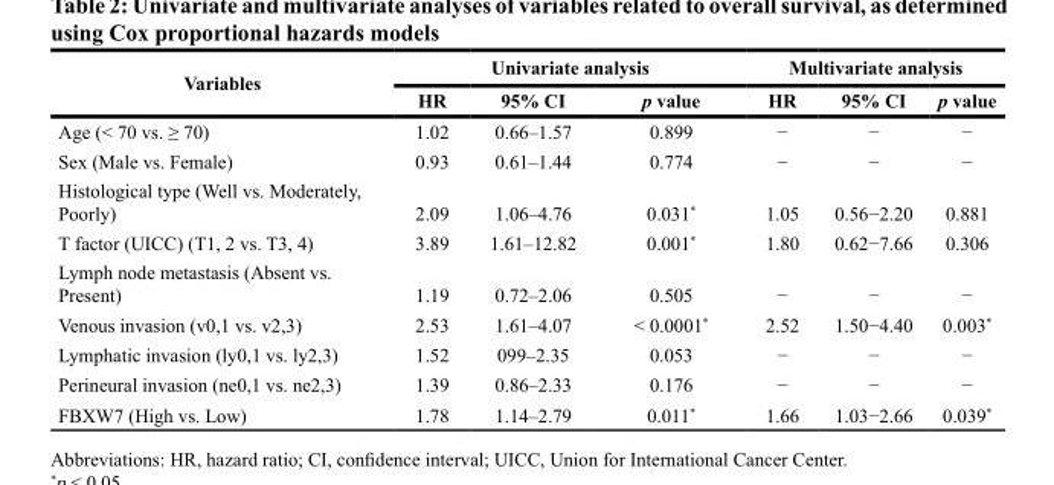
<table><thead><tr><td rowspan="2">Variables</td><td colspan="3">Univariate analysis</td><td colspan="3">Multivariate analysis</td></tr><tr><td>HR</td><td>95% CI</td><td>p value</td><td>HR</td><td>95% CI</td><td>p value</td></tr></thead><tbody><tr><td>Age (&lt; 70 vs. ≥ 70)</td><td>1.02</td><td>0.66–1.57</td><td>0.899</td><td>−</td><td>−</td><td>−</td></tr><tr><td>Sex (Male vs. Female)</td><td>0.93</td><td>0.61–1.44</td><td>0.774</td><td>−</td><td>−</td><td>−</td></tr><tr><td>Histological type (Well vs. Moderately, Poorly)</td><td>2.09</td><td>1.06–4.76</td><td>0.031*</td><td>1.05</td><td>0.56−2.20</td><td>0.881</td></tr><tr><td>T factor (UICC) (T1, 2 vs. T3, 4)</td><td>3.89</td><td>1.61–12.82</td><td>0.001*</td><td>1.80</td><td>0.62−7.66</td><td>0.306</td></tr><tr><td>Lymph node metastasis (Absent vs. Present)</td><td>1.19</td><td>0.72–2.06</td><td>0.505</td><td>−</td><td>−</td><td>−</td></tr><tr><td>Venous invasion (v0,1 vs. v2,3)</td><td>2.53</td><td>1.61–4.07</td><td>&lt; 0.0001*</td><td>2.52</td><td>1.50−4.40</td><td>0.003*</td></tr><tr><td>Lymphatic invasion (ly0,1 vs. ly2,3)</td><td>1.52</td><td>099–2.35</td><td>0.053</td><td>−</td><td>−</td><td>−</td></tr><tr><td>Perineural invasion (ne0,1 vs. ne2,3)</td><td>1.39</td><td>0.86–2.33</td><td>0.176</td><td>−</td><td>−</td><td>−</td></tr><tr><td>FBXW7 (High vs. Low)</td><td>1.78</td><td>1.14–2.79</td><td>0.011*</td><td>1.66</td><td>1.03−2.66</td><td>0.039*</td></tr></tbody></table>